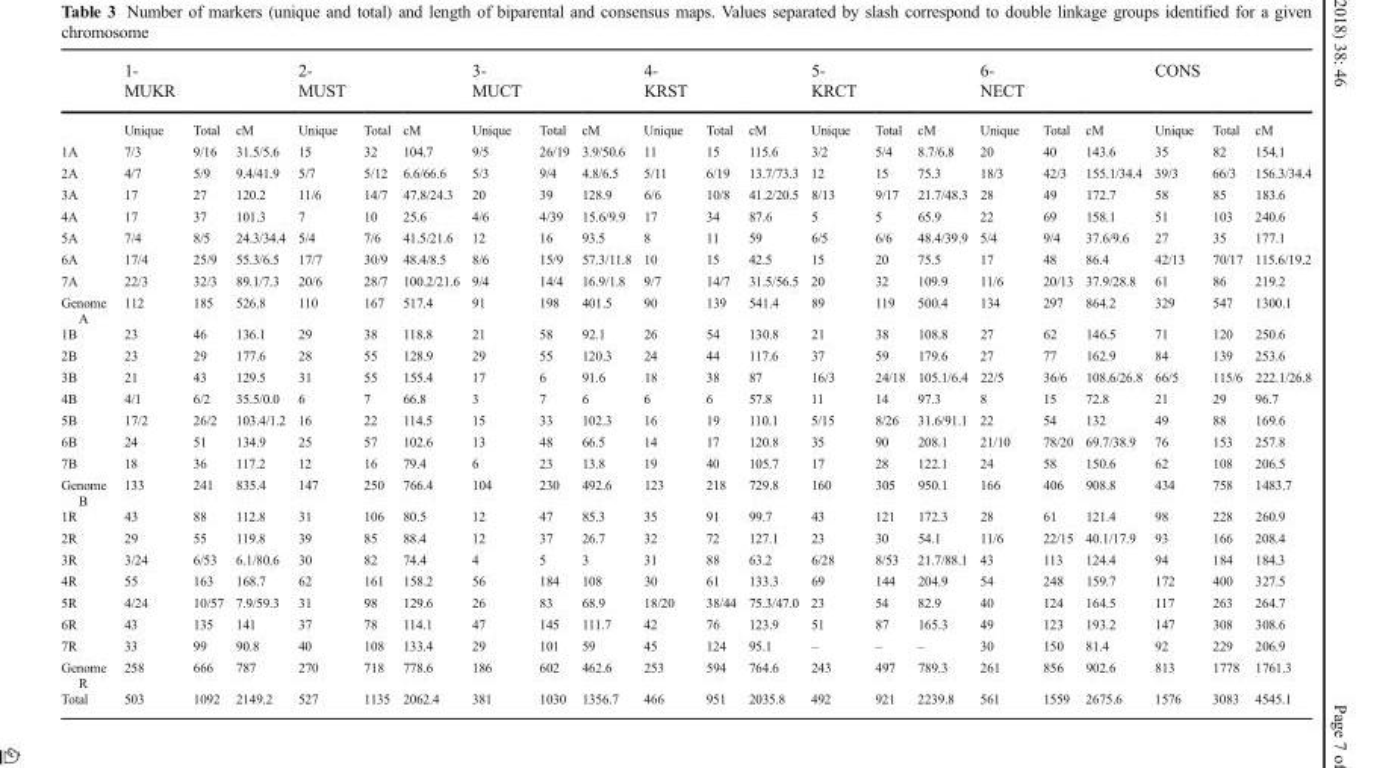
<table><thead><tr><td></td><td>1- MUKR</td><td></td><td></td><td>2- MUST</td><td></td><td></td><td>3- MUCT</td><td></td><td></td><td>4- KRST</td><td></td><td></td><td>5- KRCT</td><td></td><td></td><td>6- NECT</td><td></td><td></td><td>CONS</td><td></td><td></td></tr></thead><tbody><tr><td></td><td>Unique</td><td>Total</td><td>cM</td><td>Unique</td><td>Total</td><td>cM</td><td>Unique</td><td>Total</td><td>cM</td><td>Unique</td><td>Total</td><td>cM</td><td>Unique</td><td>Total</td><td>cM</td><td>Unique</td><td>Total</td><td>cM</td><td>Unique</td><td>Total</td><td>cM</td></tr><tr><td>1A</td><td>7/3</td><td>9/16</td><td>31.5/5.6</td><td>15</td><td>32</td><td>104.7</td><td>9/5</td><td>26/19</td><td>3.9/50.6</td><td>11</td><td>15</td><td>115.6</td><td>3/2</td><td>5/4</td><td>8.7/6.8</td><td>20</td><td>40</td><td>143.6</td><td>35</td><td>82</td><td>154.1</td></tr><tr><td>2A</td><td>4/7</td><td>5/9</td><td>9.4/41.9</td><td>5/7</td><td>5/12</td><td>6.6/66.6</td><td>5/3</td><td>9/4</td><td>4.8/6.5</td><td>5/11</td><td>6/19</td><td>13.7/73.3</td><td>12</td><td>15</td><td>75.3</td><td>18/3</td><td>42/3</td><td>155.1/34.4</td><td>39/3</td><td>66/3</td><td>156.3/34.4</td></tr><tr><td>3A</td><td>17</td><td>27</td><td>120.2</td><td>11/6</td><td>14/7</td><td>47.8/24.3</td><td>20</td><td>39</td><td>128.9</td><td>6/6</td><td>10/8</td><td>41.2/20.5</td><td>8/13</td><td>9/17</td><td>21.7/48.3</td><td>28</td><td>49</td><td>172.7</td><td>58</td><td>85</td><td>183.6</td></tr><tr><td>4A</td><td>17</td><td>37</td><td>101.3</td><td>7</td><td>10</td><td>25.6</td><td>4/6</td><td>4/39</td><td>15.6/9.9</td><td>17</td><td>34</td><td>87.6</td><td>5</td><td>5</td><td>65.9</td><td>22</td><td>69</td><td>158.1</td><td>51</td><td>103</td><td>240.6</td></tr><tr><td>5A</td><td>7/4</td><td>8/5</td><td>24.3/34.4</td><td>5/4</td><td>7/6</td><td>41.5/21.6</td><td>12</td><td>16</td><td>93.5</td><td>8</td><td>11</td><td>59</td><td>6/5</td><td>6/6</td><td>48.4/39.9</td><td>5/4</td><td>9/4</td><td>37.6/9.6</td><td>27</td><td>35</td><td>177.1</td></tr><tr><td>6A</td><td>17/4</td><td>25/9</td><td>55.3/6.5</td><td>17/7</td><td>30/9</td><td>48.4/8.5</td><td>8/6</td><td>15/9</td><td>57.3/11.8</td><td>10</td><td>15</td><td>42.5</td><td>15</td><td>20</td><td>75.5</td><td>17</td><td>48</td><td>86.4</td><td>42/13</td><td>70/17</td><td>115.6/19.2</td></tr><tr><td>7A</td><td>22/3</td><td>32/3</td><td>89.1/7.3</td><td>20/6</td><td>28/7</td><td>100.2/21.6</td><td>9/4</td><td>14/4</td><td>16.9/1.8</td><td>9/7</td><td>14/7</td><td>31.5/56.5</td><td>20</td><td>32</td><td>109.9</td><td>11/6</td><td>20/13</td><td>37.9/28.8</td><td>61</td><td>86</td><td>219.2</td></tr><tr><td>Genome A</td><td>112</td><td>185</td><td>526.8</td><td>110</td><td>167</td><td>517.4</td><td>91</td><td>198</td><td>401.5</td><td>90</td><td>139</td><td>541.4</td><td>89</td><td>119</td><td>500.4</td><td>134</td><td>297</td><td>864.2</td><td>329</td><td>547</td><td>1300.1</td></tr><tr><td>1B</td><td>23</td><td>46</td><td>136.1</td><td>29</td><td>38</td><td>118.8</td><td>21</td><td>58</td><td>92.1</td><td>26</td><td>54</td><td>130.8</td><td>21</td><td>38</td><td>108.8</td><td>27</td><td>62</td><td>146.5</td><td>71</td><td>120</td><td>250.6</td></tr><tr><td>2B</td><td>23</td><td>29</td><td>177.6</td><td>28</td><td>55</td><td>128.9</td><td>29</td><td>55</td><td>120.3</td><td>24</td><td>44</td><td>117.6</td><td>37</td><td>59</td><td>179.6</td><td>27</td><td>77</td><td>162.9</td><td>84</td><td>139</td><td>253.6</td></tr><tr><td>3B</td><td>21</td><td>43</td><td>129.5</td><td>31</td><td>55</td><td>155.4</td><td>17</td><td>6</td><td>91.6</td><td>18</td><td>38</td><td>87</td><td>16/3</td><td>24/18</td><td>105.1/6.4</td><td>22/5</td><td>36/6</td><td>108.6/26.8</td><td>66/5</td><td>115/6</td><td>222.1/26.8</td></tr><tr><td>4B</td><td>4/1</td><td>6/2</td><td>35.5/0.0</td><td>6</td><td>7</td><td>66.8</td><td>3</td><td>7</td><td>6</td><td>6</td><td>6</td><td>57.8</td><td>11</td><td>14</td><td>97.3</td><td>8</td><td>15</td><td>72.8</td><td>21</td><td>29</td><td>96.7</td></tr><tr><td>5B</td><td>17/2</td><td>26/2</td><td>103.4/1.2</td><td>16</td><td>22</td><td>114.5</td><td>15</td><td>33</td><td>102.3</td><td>16</td><td>19</td><td>110.1</td><td>5/15</td><td>8/26</td><td>31.6/91.1</td><td>22</td><td>54</td><td>132</td><td>49</td><td>88</td><td>169.6</td></tr><tr><td>6B</td><td>24</td><td>51</td><td>134.9</td><td>25</td><td>57</td><td>102.6</td><td>13</td><td>48</td><td>66.5</td><td>14</td><td>17</td><td>120.8</td><td>35</td><td>90</td><td>208.1</td><td>21/10</td><td>78/20</td><td>69.7/38.9</td><td>76</td><td>153</td><td>257.8</td></tr><tr><td>7B</td><td>18</td><td>36</td><td>117.2</td><td>12</td><td>16</td><td>79.4</td><td>6</td><td>23</td><td>13.8</td><td>19</td><td>40</td><td>105.7</td><td>17</td><td>28</td><td>122.1</td><td>24</td><td>58</td><td>150.6</td><td>62</td><td>108</td><td>206.5</td></tr><tr><td>Genome B</td><td>133</td><td>241</td><td>835.4</td><td>147</td><td>250</td><td>766.4</td><td>104</td><td>230</td><td>492.6</td><td>123</td><td>218</td><td>729.8</td><td>160</td><td>305</td><td>950.1</td><td>166</td><td>406</td><td>908.8</td><td>434</td><td>758</td><td>1483.7</td></tr><tr><td>1R</td><td>43</td><td>88</td><td>112.8</td><td>31</td><td>106</td><td>80.5</td><td>12</td><td>47</td><td>85.3</td><td>35</td><td>91</td><td>99.7</td><td>43</td><td>121</td><td>172.3</td><td>28</td><td>61</td><td>121.4</td><td>98</td><td>228</td><td>260.9</td></tr><tr><td>2R</td><td>29</td><td>55</td><td>119.8</td><td>39</td><td>85</td><td>88.4</td><td>12</td><td>37</td><td>26.7</td><td>32</td><td>72</td><td>127.1</td><td>23</td><td>30</td><td>54.1</td><td>11/6</td><td>22/15</td><td>40.1/17.9</td><td>93</td><td>166</td><td>208.4</td></tr><tr><td>3R</td><td>3/24</td><td>6/53</td><td>6.1/80.6</td><td>30</td><td>82</td><td>74.4</td><td>4</td><td>5</td><td>3</td><td>31</td><td>88</td><td>63.2</td><td>6/28</td><td>8/53</td><td>21.7/88.1</td><td>43</td><td>113</td><td>124.4</td><td>94</td><td>184</td><td>184.3</td></tr><tr><td>4R</td><td>55</td><td>163</td><td>168.7</td><td>62</td><td>161</td><td>158.2</td><td>56</td><td>184</td><td>108</td><td>30</td><td>61</td><td>133.3</td><td>69</td><td>144</td><td>204.9</td><td>54</td><td>248</td><td>159.7</td><td>172</td><td>400</td><td>327.5</td></tr><tr><td>5R</td><td>4/24</td><td>10/57</td><td>7.9/59.3</td><td>31</td><td>98</td><td>129.6</td><td>26</td><td>83</td><td>68.9</td><td>18/20</td><td>38/44</td><td>75.3/47.0</td><td>23</td><td>54</td><td>82.9</td><td>40</td><td>124</td><td>164.5</td><td>117</td><td>263</td><td>264.7</td></tr><tr><td>6R</td><td>43</td><td>135</td><td>141</td><td>37</td><td>78</td><td>114.1</td><td>47</td><td>145</td><td>111.7</td><td>42</td><td>76</td><td>123.9</td><td>51</td><td>87</td><td>165.3</td><td>49</td><td>123</td><td>193.2</td><td>147</td><td>308</td><td>308.6</td></tr><tr><td>7R</td><td>33</td><td>99</td><td>90.8</td><td>40</td><td>108</td><td>133.4</td><td>29</td><td>101</td><td>59</td><td>45</td><td>124</td><td>95.1</td><td>–</td><td>–</td><td>–</td><td>30</td><td>150</td><td>81.4</td><td>92</td><td>229</td><td>206.9</td></tr><tr><td>Genome R</td><td>258</td><td>666</td><td>787</td><td>270</td><td>718</td><td>778.6</td><td>186</td><td>602</td><td>462.6</td><td>253</td><td>594</td><td>764.6</td><td>243</td><td>497</td><td>789.3</td><td>261</td><td>856</td><td>902.6</td><td>813</td><td>1778</td><td>1761.3</td></tr><tr><td>Total</td><td>503</td><td>1092</td><td>2149.2</td><td>527</td><td>1135</td><td>2062.4</td><td>381</td><td>1030</td><td>1356.7</td><td>466</td><td>951</td><td>2035.8</td><td>492</td><td>921</td><td>2239.8</td><td>561</td><td>1559</td><td>2675.6</td><td>1576</td><td>3083</td><td>4545.1</td></tr></tbody></table>